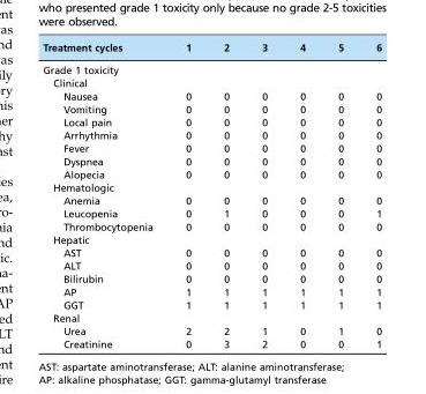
<table><thead><tr><td>Treatment cycles</td><td>1</td><td>2</td><td>3</td><td>4</td><td>5</td><td>6</td></tr></thead><tbody><tr><td colspan="7">Grade 1 toxicity</td></tr><tr><td colspan="7">Clinical</td></tr><tr><td>Nausea</td><td>0</td><td>0</td><td>0</td><td>0</td><td>0</td><td>0</td></tr><tr><td>Vomiting</td><td>0</td><td>0</td><td>0</td><td>0</td><td>0</td><td>0</td></tr><tr><td>Local pain</td><td>0</td><td>0</td><td>0</td><td>0</td><td>0</td><td>0</td></tr><tr><td>Arrhythmia</td><td>0</td><td>0</td><td>0</td><td>0</td><td>0</td><td>0</td></tr><tr><td>Fever</td><td>0</td><td>0</td><td>0</td><td>0</td><td>0</td><td>0</td></tr><tr><td>Dyspnea</td><td>0</td><td>0</td><td>0</td><td>0</td><td>0</td><td>0</td></tr><tr><td>Alopecia</td><td>0</td><td>0</td><td>0</td><td>0</td><td>0</td><td>0</td></tr><tr><td colspan="7">Hematologic</td></tr><tr><td>Anemia</td><td>0</td><td>0</td><td>0</td><td>0</td><td>0</td><td>0</td></tr><tr><td>Leucopenia</td><td>0</td><td>1</td><td>0</td><td>0</td><td>0</td><td>1</td></tr><tr><td>Thrombocytopenia</td><td>0</td><td>0</td><td>0</td><td>0</td><td>0</td><td>0</td></tr><tr><td colspan="7">Hepatic</td></tr><tr><td>AST</td><td>0</td><td>0</td><td>0</td><td>0</td><td>0</td><td>0</td></tr><tr><td>ALT</td><td>0</td><td>0</td><td>0</td><td>0</td><td>0</td><td>0</td></tr><tr><td>Bilirubin</td><td>0</td><td>0</td><td>0</td><td>0</td><td>0</td><td>0</td></tr><tr><td>AP</td><td>1</td><td>1</td><td>1</td><td>1</td><td>1</td><td>1</td></tr><tr><td>GGT</td><td>1</td><td>1</td><td>1</td><td>1</td><td>1</td><td>1</td></tr><tr><td colspan="7">Renal</td></tr><tr><td>Urea</td><td>2</td><td>2</td><td>1</td><td>0</td><td>1</td><td>0</td></tr><tr><td>Creatinine</td><td>0</td><td>3</td><td>2</td><td>0</td><td>0</td><td>1</td></tr></tbody></table>